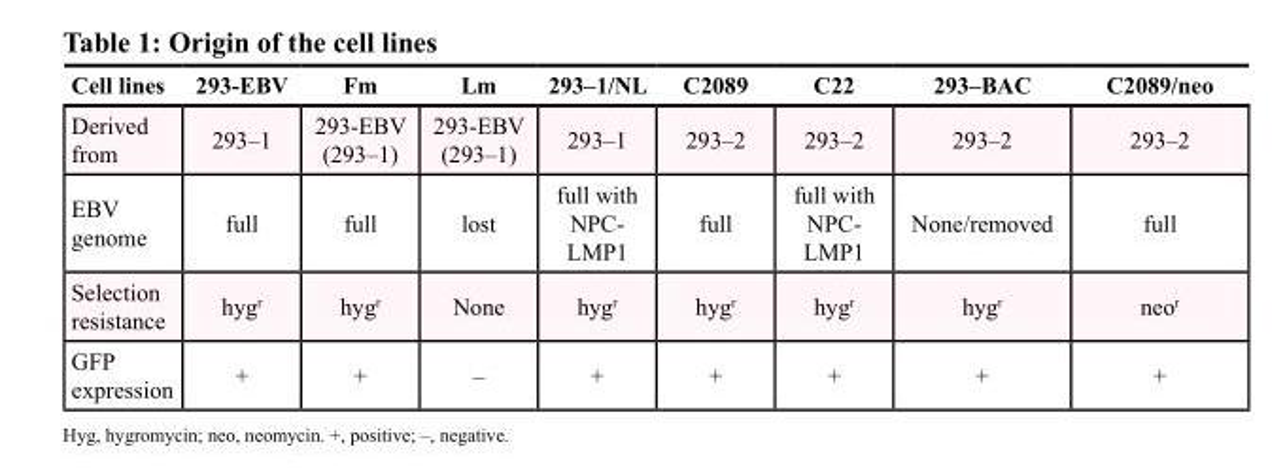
<table><thead><tr><td>Cell lines</td><td>293-EBV</td><td>Fm</td><td>Lm</td><td>293–1/NL</td><td>C2089</td><td>C22</td><td>293–BAC</td><td>C2089/neo</td></tr></thead><tbody><tr><td>Derived from</td><td>293–1</td><td>293-EBV (293–1)</td><td>293-EBV (293–1)</td><td>293–1</td><td>293–2</td><td>293–2</td><td>293–2</td><td>293–2</td></tr><tr><td>EBV genome</td><td>full</td><td>full</td><td>lost</td><td>full with NPC- LMP1</td><td>full</td><td>full with NPC- LMP1</td><td>None/removed</td><td>full</td></tr><tr><td>Selection resistance</td><td>hyg<sup>r</sup></td><td>hyg<sup>r</sup></td><td>None</td><td>hyg<sup>r</sup></td><td>hyg<sup>r</sup></td><td>hyg<sup>r</sup></td><td>hyg<sup>r</sup></td><td>neo<sup>r</sup></td></tr><tr><td>GFP expression</td><td>+</td><td>+</td><td>–</td><td>+</td><td>+</td><td>+</td><td>+</td><td>+</td></tr></tbody></table>